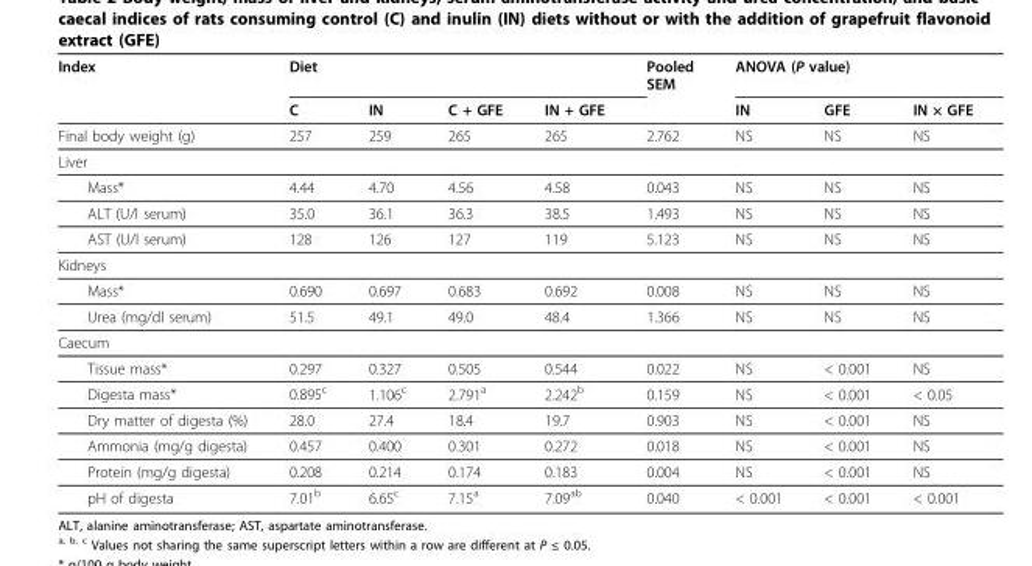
<table><thead><tr><td rowspan="2">Index</td><td colspan="4">Diet</td><td rowspan="2">Pooled SEM</td><td colspan="3">ANOVA (P value)</td></tr><tr><td>C</td><td>IN</td><td>C + GFE</td><td>IN + GFE</td><td>IN</td><td>GFE</td><td>IN × GFE</td></tr></thead><tbody><tr><td>Final body weight (g)</td><td>257</td><td>259</td><td>265</td><td>265</td><td>2.762</td><td>NS</td><td>NS</td><td>NS</td></tr><tr><td colspan="9">Liver</td></tr><tr><td>Mass*</td><td>4.44</td><td>4.70</td><td>4.56</td><td>4.58</td><td>0.043</td><td>NS</td><td>NS</td><td>NS</td></tr><tr><td>ALT (U/l serum)</td><td>35.0</td><td>36.1</td><td>36.3</td><td>38.5</td><td>1.493</td><td>NS</td><td>NS</td><td>NS</td></tr><tr><td>AST (U/l serum)</td><td>128</td><td>126</td><td>127</td><td>119</td><td>5.123</td><td>NS</td><td>NS</td><td>NS</td></tr><tr><td colspan="9">Kidneys</td></tr><tr><td>Mass*</td><td>0.690</td><td>0.697</td><td>0.683</td><td>0.692</td><td>0.008</td><td>NS</td><td>NS</td><td>NS</td></tr><tr><td>Urea (mg/dl serum)</td><td>51.5</td><td>49.1</td><td>49.0</td><td>48.4</td><td>1.366</td><td>NS</td><td>NS</td><td>NS</td></tr><tr><td colspan="9">Caecum</td></tr><tr><td>Tissue mass*</td><td>0.297</td><td>0.327</td><td>0.505</td><td>0.544</td><td>0.022</td><td>NS</td><td>&lt; 0.001</td><td>NS</td></tr><tr><td>Digesta mass*</td><td>0.895<sup>c</sup></td><td>1.106<sup>c</sup></td><td>2.791<sup>a</sup></td><td>2.242<sup>b</sup></td><td>0.159</td><td>NS</td><td>&lt; 0.001</td><td>&lt; 0.05</td></tr><tr><td>Dry matter of digesta (%)</td><td>28.0</td><td>27.4</td><td>18.4</td><td>19.7</td><td>0.903</td><td>NS</td><td>&lt; 0.001</td><td>NS</td></tr><tr><td>Ammonia (mg/g digesta)</td><td>0.457</td><td>0.400</td><td>0.301</td><td>0.272</td><td>0.018</td><td>NS</td><td>&lt; 0.001</td><td>NS</td></tr><tr><td>Protein (mg/g digesta)</td><td>0.208</td><td>0.214</td><td>0.174</td><td>0.183</td><td>0.004</td><td>NS</td><td>&lt; 0.001</td><td>NS</td></tr><tr><td>pH of digesta</td><td>7.01<sup>b</sup></td><td>6.65<sup>c</sup></td><td>7.15<sup>a</sup></td><td>7.09<sup>ab</sup></td><td>0.040</td><td>&lt; 0.001</td><td>&lt; 0.001</td><td>&lt; 0.001</td></tr></tbody></table>